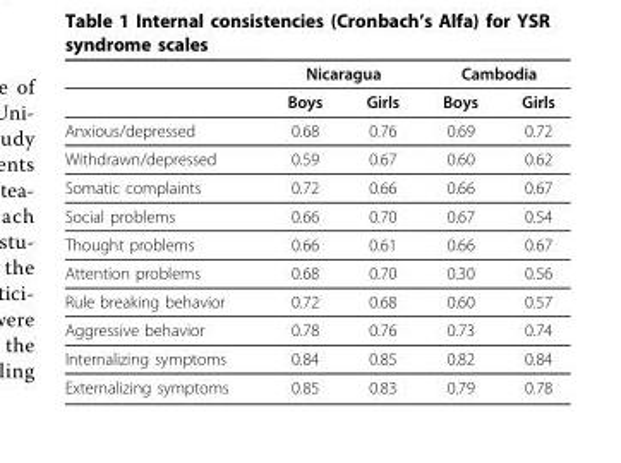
<table><thead><tr><td rowspan="2"></td><td colspan="2">Nicaragua</td><td colspan="2">Cambodia</td></tr><tr><td>Boys</td><td>Girls</td><td>Boys</td><td>Girls</td></tr></thead><tbody><tr><td>Anxious/depressed</td><td>0.68</td><td>0.76</td><td>0.69</td><td>0.72</td></tr><tr><td>Withdrawn/depressed</td><td>0.59</td><td>0.67</td><td>0.60</td><td>0.62</td></tr><tr><td>Somatic complaints</td><td>0.72</td><td>0.66</td><td>0.66</td><td>0.67</td></tr><tr><td>Social problems</td><td>0.66</td><td>0.70</td><td>0.67</td><td>0.54</td></tr><tr><td>Thought problems</td><td>0.66</td><td>0.61</td><td>0.66</td><td>0.67</td></tr><tr><td>Attention problems</td><td>0.68</td><td>0.70</td><td>0.30</td><td>0.56</td></tr><tr><td>Rule breaking behavior</td><td>0.72</td><td>0.68</td><td>0.60</td><td>0.57</td></tr><tr><td>Aggressive behavior</td><td>0.78</td><td>0.76</td><td>0.73</td><td>0.74</td></tr><tr><td>Internalizing symptoms</td><td>0.84</td><td>0.85</td><td>0.82</td><td>0.84</td></tr><tr><td>Externalizing symptoms</td><td>0.85</td><td>0.83</td><td>0.79</td><td>0.78</td></tr></tbody></table>